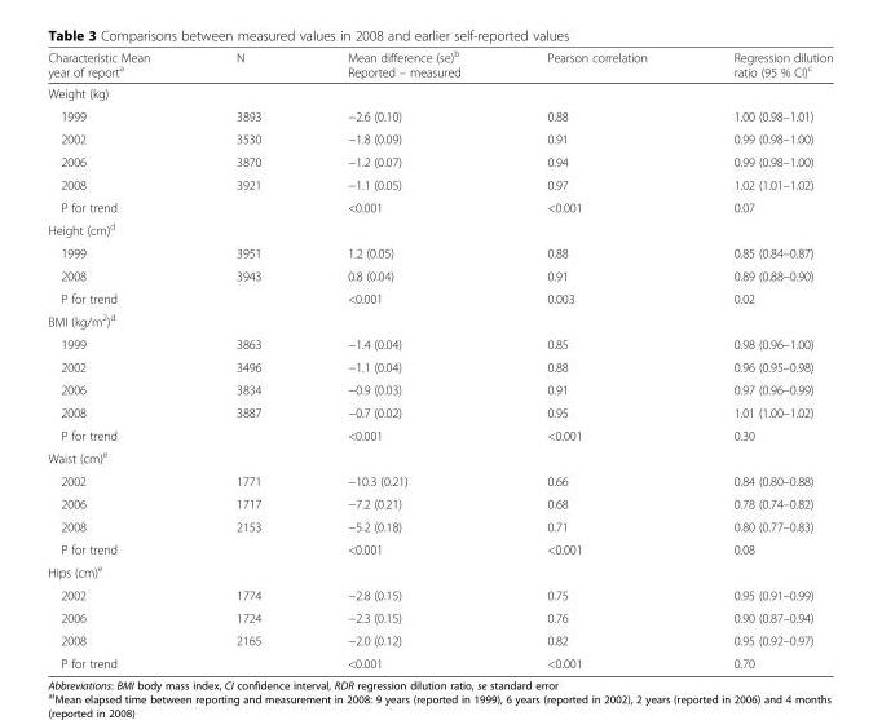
<table><thead><tr><td>Characteristic Mean year of report<sup>a</sup></td><td>N</td><td>Mean difference (se)<sup>b</sup> Reported – measured</td><td>Pearson correlation</td><td>Regression dilution ratio (95 % CI)<sup>c</sup></td></tr></thead><tbody><tr><td colspan="5">Weight (kg)</td></tr><tr><td>1999</td><td>3893</td><td>−2.6 (0.10)</td><td>0.88</td><td>1.00 (0.98–1.01)</td></tr><tr><td>2002</td><td>3530</td><td>−1.8 (0.09)</td><td>0.91</td><td>0.99 (0.98–1.00)</td></tr><tr><td>2006</td><td>3870</td><td>−1.2 (0.07)</td><td>0.94</td><td>0.99 (0.98–1.00)</td></tr><tr><td>2008</td><td>3921</td><td>−1.1 (0.05)</td><td>0.97</td><td>1.02 (1.01–1.02)</td></tr><tr><td>P for trend</td><td></td><td>&lt;0.001</td><td>&lt;0.001</td><td>0.07</td></tr><tr><td colspan="5">Height (cm)<sup>d</sup></td></tr><tr><td>1999</td><td>3951</td><td>1.2 (0.05)</td><td>0.88</td><td>0.85 (0.84–0.87)</td></tr><tr><td>2008</td><td>3943</td><td>0.8 (0.04)</td><td>0.91</td><td>0.89 (0.88–0.90)</td></tr><tr><td>P for trend</td><td></td><td>&lt;0.001</td><td>0.003</td><td>0.02</td></tr><tr><td colspan="5">BMI (kg/m<sup>2</sup>)<sup>d</sup></td></tr><tr><td>1999</td><td>3863</td><td>−1.4 (0.04)</td><td>0.85</td><td>0.98 (0.96–1.00)</td></tr><tr><td>2002</td><td>3496</td><td>−1.1 (0.04)</td><td>0.88</td><td>0.96 (0.95–0.98)</td></tr><tr><td>2006</td><td>3834</td><td>−0.9 (0.03)</td><td>0.91</td><td>0.97 (0.96–0.99)</td></tr><tr><td>2008</td><td>3887</td><td>−0.7 (0.02)</td><td>0.95</td><td>1.01 (1.00–1.02)</td></tr><tr><td>P for trend</td><td></td><td>&lt;0.001</td><td>&lt;0.001</td><td>0.30</td></tr><tr><td colspan="5">Waist (cm)<sup>e</sup></td></tr><tr><td>2002</td><td>1771</td><td>−10.3 (0.21)</td><td>0.66</td><td>0.84 (0.80–0.88)</td></tr><tr><td>2006</td><td>1717</td><td>−7.2 (0.21)</td><td>0.68</td><td>0.78 (0.74–0.82)</td></tr><tr><td>2008</td><td>2153</td><td>−5.2 (0.18)</td><td>0.71</td><td>0.80 (0.77–0.83)</td></tr><tr><td>P for trend</td><td></td><td>&lt;0.001</td><td>&lt;0.001</td><td>0.08</td></tr><tr><td colspan="5">Hips (cm)<sup>e</sup></td></tr><tr><td>2002</td><td>1774</td><td>−2.8 (0.15)</td><td>0.75</td><td>0.95 (0.91–0.99)</td></tr><tr><td>2006</td><td>1724</td><td>−2.3 (0.15)</td><td>0.76</td><td>0.90 (0.87–0.94)</td></tr><tr><td>2008</td><td>2165</td><td>−2.0 (0.12)</td><td>0.82</td><td>0.95 (0.92–0.97)</td></tr><tr><td>P for trend</td><td></td><td>&lt;0.001</td><td>&lt;0.001</td><td>0.70</td></tr></tbody></table>